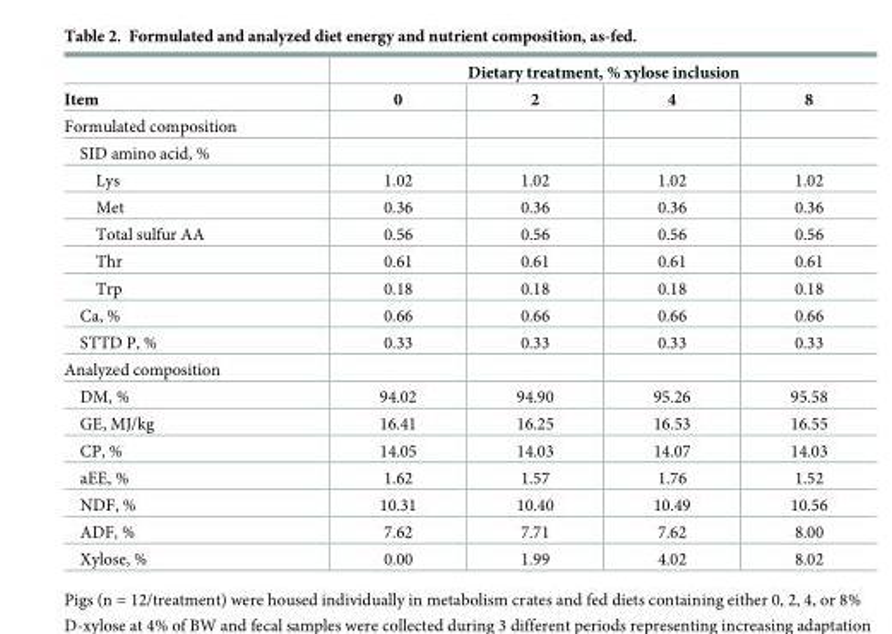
<table><thead><tr><td rowspan="2">Item</td><td colspan="4">Dietary treatment, % xylose inclusion</td></tr><tr><td>0</td><td>2</td><td>4</td><td>8</td></tr></thead><tbody><tr><td colspan="5">Formulated composition</td></tr><tr><td colspan="5">SID amino acid, %</td></tr><tr><td>Lys</td><td>1.02</td><td>1.02</td><td>1.02</td><td>1.02</td></tr><tr><td>Met</td><td>0.36</td><td>0.36</td><td>0.36</td><td>0.36</td></tr><tr><td>Total sulfur AA</td><td>0.56</td><td>0.56</td><td>0.56</td><td>0.56</td></tr><tr><td>Thr</td><td>0.61</td><td>0.61</td><td>0.61</td><td>0.61</td></tr><tr><td>Trp</td><td>0.18</td><td>0.18</td><td>0.18</td><td>0.18</td></tr><tr><td>Ca, %</td><td>0.66</td><td>0.66</td><td>0.66</td><td>0.66</td></tr><tr><td>STTD P, %</td><td>0.33</td><td>0.33</td><td>0.33</td><td>0.33</td></tr><tr><td colspan="5">Analyzed composition</td></tr><tr><td>DM, %</td><td>94.02</td><td>94.90</td><td>95.26</td><td>95.58</td></tr><tr><td>GE, MJ/kg</td><td>16.41</td><td>16.25</td><td>16.53</td><td>16.55</td></tr><tr><td>CP, %</td><td>14.05</td><td>14.03</td><td>14.07</td><td>14.03</td></tr><tr><td>aEE, %</td><td>1.62</td><td>1.57</td><td>1.76</td><td>1.52</td></tr><tr><td>NDF, %</td><td>10.31</td><td>10.40</td><td>10.49</td><td>10.56</td></tr><tr><td>ADF, %</td><td>7.62</td><td>7.71</td><td>7.62</td><td>8.00</td></tr><tr><td>Xylose, %</td><td>0.00</td><td>1.99</td><td>4.02</td><td>8.02</td></tr></tbody></table>